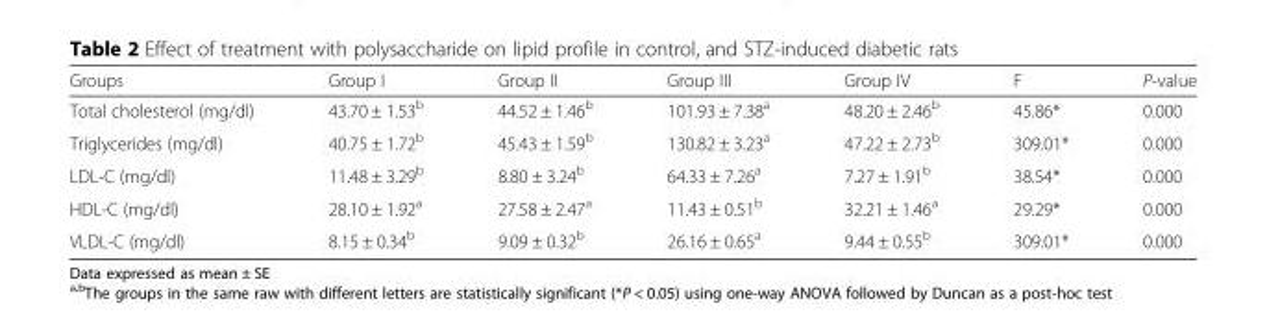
<table><thead><tr><td>Groups</td><td>Group I</td><td>Group II</td><td>Group III</td><td>Group IV</td><td>F</td><td>P-value</td></tr></thead><tbody><tr><td>Total cholesterol (mg/dl)</td><td>43.70 ± 1.53<sup>b</sup></td><td>44.52 ± 1.46<sup>b</sup></td><td>101.93 ± 7.38<sup>a</sup></td><td>48.20 ± 2.46<sup>b</sup></td><td>45.86*</td><td>0.000</td></tr><tr><td>Triglycerides (mg/dl)</td><td>40.75 ± 1.72<sup>b</sup></td><td>45.43 ± 1.59<sup>b</sup></td><td>130.82 ± 3.23<sup>a</sup></td><td>47.22 ± 2.73<sup>b</sup></td><td>309.01*</td><td>0.000</td></tr><tr><td>LDL-C (mg/dl)</td><td>11.48 ± 3.29<sup>b</sup></td><td>8.80 ± 3.24<sup>b</sup></td><td>64.33 ± 7.26<sup>a</sup></td><td>7.27 ± 1.91<sup>b</sup></td><td>38.54*</td><td>0.000</td></tr><tr><td>HDL-C (mg/dl)</td><td>28.10 ± 1.92<sup>a</sup></td><td>27.58 ± 2.47<sup>a</sup></td><td>11.43 ± 0.51<sup>b</sup></td><td>32.21 ± 1.46<sup>a</sup></td><td>29.29*</td><td>0.000</td></tr><tr><td>VLDL-C (mg/dl)</td><td>8.15 ± 0.34<sup>b</sup></td><td>9.09 ± 0.32<sup>b</sup></td><td>26.16 ± 0.65<sup>a</sup></td><td>9.44 ± 0.55<sup>b</sup></td><td>309.01*</td><td>0.000</td></tr></tbody></table>